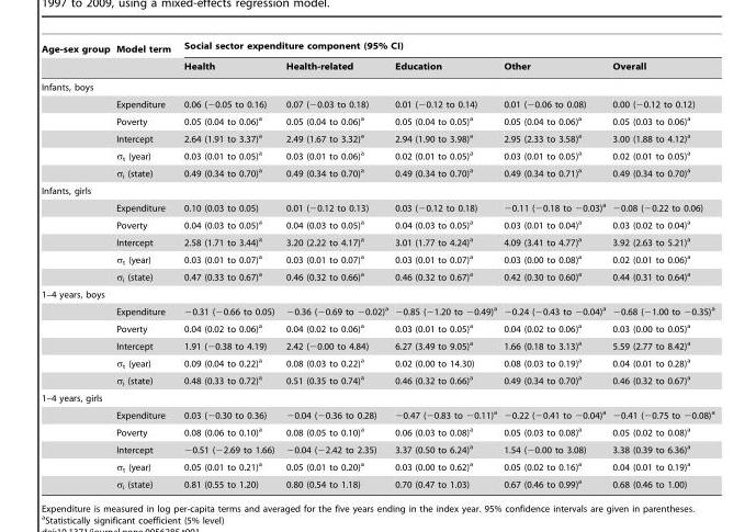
<table><thead><tr><td rowspan="2">Age-sex group</td><td rowspan="2">Model term</td><td colspan="5">Social sector expenditure component (95% CI)</td></tr><tr><td>Health</td><td>Health-related</td><td>Education</td><td>Other</td><td>Overall</td></tr></thead><tbody><tr><td colspan="7">Infants, boys</td></tr><tr><td></td><td>Expenditure</td><td>0.06 (−0.05 to 0.16)</td><td>0.07 (−0.03 to 0.18)</td><td>0.01 (−0.12 to 0.14)</td><td>0.01 (−0.06 to 0.08)</td><td>0.00 (−0.12 to 0.12)</td></tr><tr><td></td><td>Poverty</td><td>0.05 (0.04 to 0.06)<sup>a</sup></td><td>0.05 (0.04 to 0.06)<sup>a</sup></td><td>0.05 (0.04 to 0.05)<sup>a</sup></td><td>0.05 (0.04 to 0.06)<sup>a</sup></td><td>0.05 (0.03 to 0.06)<sup>a</sup></td></tr><tr><td></td><td>Intercept</td><td>2.64 (1.91 to 3.37)<sup>a</sup></td><td>2.49 (1.67 to 3.32)<sup>a</sup></td><td>2.94 (1.90 to 3.98)<sup>a</sup></td><td>2.95 (2.33 to 3.58)<sup>a</sup></td><td>3.00 (1.88 to 4.12)<sup>a</sup></td></tr><tr><td></td><td>σ<sub>t</sub> (year)</td><td>0.03 (0.01 to 0.05)<sup>a</sup></td><td>0.03 (0.01 to 0.06)<sup>a</sup></td><td>0.02 (0.01 to 0.05)<sup>a</sup></td><td>0.03 (0.01 to 0.05)<sup>a</sup></td><td>0.02 (0.01 to 0.05)<sup>a</sup></td></tr><tr><td></td><td>σ<sub>i</sub> (state)</td><td>0.49 (0.34 to 0.70)<sup>a</sup></td><td>0.49 (0.34 to 0.70)<sup>a</sup></td><td>0.49 (0.34 to 0.70)<sup>a</sup></td><td>0.49 (0.34 to 0.71)<sup>a</sup></td><td>0.49 (0.34 to 0.70)<sup>a</sup></td></tr><tr><td colspan="7">Infants, girls</td></tr><tr><td></td><td>Expenditure</td><td>0.10 (0.03 to 0.05)</td><td>0.01 (−0.12 to 0.13)</td><td>0.03 (−0.12 to 0.18)</td><td>−0.11 (−0.18 to −0.03)<sup>a</sup></td><td>−0.08 (−0.22 to 0.06)</td></tr><tr><td></td><td>Poverty</td><td>0.04 (0.03 to 0.05)<sup>a</sup></td><td>0.04 (0.03 to 0.05)<sup>a</sup></td><td>0.04 (0.03 to 0.05)<sup>a</sup></td><td>0.03 (0.01 to 0.04)<sup>a</sup></td><td>0.03 (0.02 to 0.04)<sup>a</sup></td></tr><tr><td></td><td>Intercept</td><td>2.58 (1.71 to 3.44)<sup>a</sup></td><td>3.20 (2.22 to 4.17)<sup>a</sup></td><td>3.01 (1.77 to 4.24)<sup>a</sup></td><td>4.09 (3.41 to 4.77)<sup>a</sup></td><td>3.92 (2.63 to 5.21)<sup>a</sup></td></tr><tr><td></td><td>σ<sub>t</sub> (year)</td><td>0.03 (0.01 to 0.07)<sup>a</sup></td><td>0.03 (0.01 to 0.07)<sup>a</sup></td><td>0.03 (0.01 to 0.07)<sup>a</sup></td><td>0.03 (0.00 to 0.08)<sup>a</sup></td><td>0.02 (0.01 to 0.06)<sup>a</sup></td></tr><tr><td></td><td>σ<sub>i</sub> (state)</td><td>0.47 (0.33 to 0.67)<sup>a</sup></td><td>0.46 (0.32 to 0.66)<sup>a</sup></td><td>0.46 (0.32 to 0.67)<sup>a</sup></td><td>0.42 (0.30 to 0.60)<sup>a</sup></td><td>0.44 (0.31 to 0.64)<sup>a</sup></td></tr><tr><td colspan="7">1–4 years, boys</td></tr><tr><td></td><td>Expenditure</td><td>−0.31 (−0.66 to 0.05)</td><td>−0.36 (−0.69 to −0.02)<sup>a</sup></td><td>−0.85 (−1.20 to −0.49)<sup>a</sup></td><td>−0.24 (−0.43 to −0.04)<sup>a</sup></td><td>−0.68 (−1.00 to −0.35)<sup>a</sup></td></tr><tr><td></td><td>Poverty</td><td>0.04 (0.02 to 0.06)<sup>a</sup></td><td>0.04 (0.02 to 0.06)<sup>a</sup></td><td>0.03 (0.01 to 0.05)<sup>a</sup></td><td>0.04 (0.02 to 0.06)<sup>a</sup></td><td>0.03 (0.00 to 0.05)<sup>a</sup></td></tr><tr><td></td><td>Intercept</td><td>1.91 (−0.38 to 4.19)</td><td>2.42 (−0.00 to 4.84)</td><td>6.27 (3.49 to 9.05)<sup>a</sup></td><td>1.66 (0.18 to 3.13)<sup>a</sup></td><td>5.59 (2.77 to 8.42)<sup>a</sup></td></tr><tr><td></td><td>σ<sub>t</sub> (year)</td><td>0.09 (0.04 to 0.22)<sup>a</sup></td><td>0.08 (0.03 to 0.22)<sup>a</sup></td><td>0.02 (0.00 to 14.30)</td><td>0.08 (0.03 to 0.19)<sup>a</sup></td><td>0.04 (0.01 to 0.28)<sup>a</sup></td></tr><tr><td></td><td>σ<sub>i</sub> (state)</td><td>0.48 (0.33 to 0.72)<sup>a</sup></td><td>0.51 (0.35 to 0.74)<sup>a</sup></td><td>0.46 (0.32 to 0.66)<sup>a</sup></td><td>0.49 (0.34 to 0.70)<sup>a</sup></td><td>0.46 (0.32 to 0.67)<sup>a</sup></td></tr><tr><td colspan="7">1–4 years, girls</td></tr><tr><td></td><td>Expenditure</td><td>0.03 (−0.30 to 0.36)</td><td>−0.04 (−0.36 to 0.28)</td><td>−0.47 (−0.83 to −0.11)<sup>a</sup></td><td>−0.22 (−0.41 to −0.04)<sup>a</sup></td><td>−0.41 (−0.75 to −0.08)<sup>a</sup></td></tr><tr><td></td><td>Poverty</td><td>0.08 (0.06 to 0.10)<sup>a</sup></td><td>0.08 (0.05 to 0.10)<sup>a</sup></td><td>0.06 (0.03 to 0.08)<sup>a</sup></td><td>0.05 (0.03 to 0.08)<sup>a</sup></td><td>0.05 (0.02 to 0.08)<sup>a</sup></td></tr><tr><td></td><td>Intercept</td><td>−0.51 (−2.69 to 1.66)</td><td>−0.04 (−2.42 to 2.35)</td><td>3.37 (0.50 to 6.24)<sup>a</sup></td><td>1.54 (−0.00 to 3.08)</td><td>3.38 (0.39 to 6.36)<sup>a</sup></td></tr><tr><td></td><td>σ<sub>t</sub> (year)</td><td>0.05 (0.01 to 0.21)<sup>a</sup></td><td>0.05 (0.01 to 0.20)<sup>a</sup></td><td>0.03 (0.00 to 0.62)<sup>a</sup></td><td>0.05 (0.02 to 0.16)<sup>a</sup></td><td>0.04 (0.01 to 0.19)<sup>a</sup></td></tr><tr><td></td><td>σ<sub>i</sub> (state)</td><td>0.81 (0.55 to 1.20)</td><td>0.80 (0.54 to 1.18)</td><td>0.70 (0.47 to 1.03)</td><td>0.67 (0.46 to 0.99)<sup>a</sup></td><td>0.68 (0.46 to 1.00)</td></tr></tbody></table>